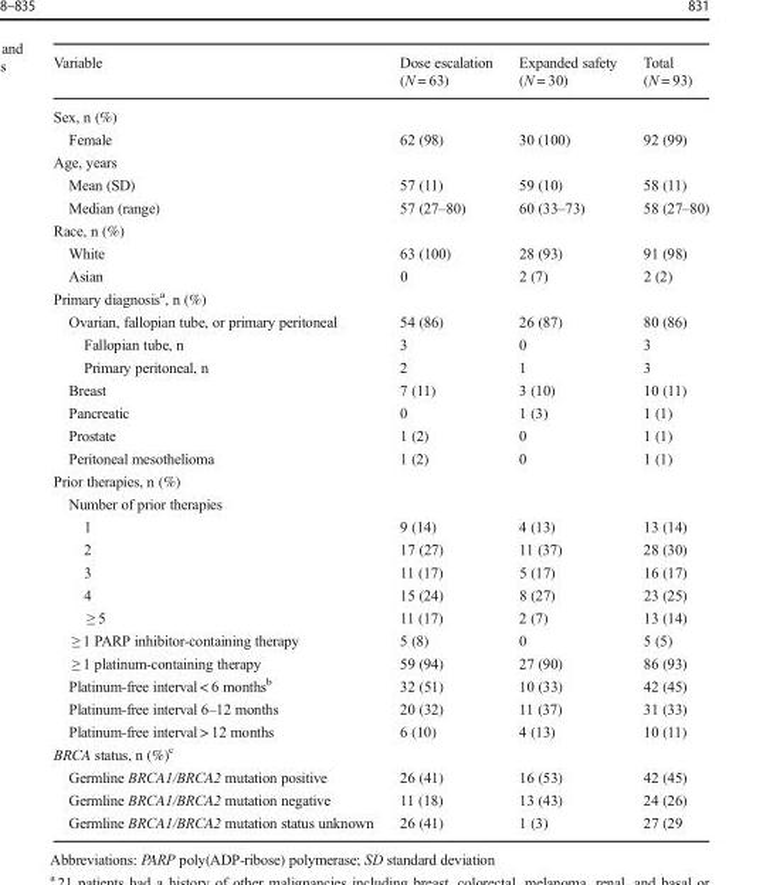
<table><thead><tr><td>Variable</td><td>Dose escalation (N = 63)</td><td>Expanded safety (N = 30)</td><td>Total (N = 93)</td></tr></thead><tbody><tr><td colspan="4">Sex, n (%)</td></tr><tr><td>Female</td><td>62 (98)</td><td>30 (100)</td><td>92 (99)</td></tr><tr><td colspan="4">Age, years</td></tr><tr><td>Mean (SD)</td><td>57 (11)</td><td>59 (10)</td><td>58 (11)</td></tr><tr><td>Median (range)</td><td>57 (27–80)</td><td>60 (33–73)</td><td>58 (27–80)</td></tr><tr><td colspan="4">Race, n (%)</td></tr><tr><td>White</td><td>63 (100)</td><td>28 (93)</td><td>91 (98)</td></tr><tr><td>Asian</td><td>0</td><td>2 (7)</td><td>2 (2)</td></tr><tr><td colspan="4">Primary diagnosis<sup>a</sup>, n (%)</td></tr><tr><td>Ovarian, fallopian tube, or primary peritoneal</td><td>54 (86)</td><td>26 (87)</td><td>80 (86)</td></tr><tr><td>Fallopian tube, n</td><td>3</td><td>0</td><td>3</td></tr><tr><td>Primary peritoneal, n</td><td>2</td><td>1</td><td>3</td></tr><tr><td>Breast</td><td>7 (11)</td><td>3 (10)</td><td>10 (11)</td></tr><tr><td>Pancreatic</td><td>0</td><td>1 (3)</td><td>1 (1)</td></tr><tr><td>Prostate</td><td>1 (2)</td><td>0</td><td>1 (1)</td></tr><tr><td>Peritoneal mesothelioma</td><td>1 (2)</td><td>0</td><td>1 (1)</td></tr><tr><td colspan="4">Prior therapies, n (%)</td></tr><tr><td colspan="4">Number of prior therapies</td></tr><tr><td>1</td><td>9 (14)</td><td>4 (13)</td><td>13 (14)</td></tr><tr><td>2</td><td>17 (27)</td><td>11 (37)</td><td>28 (30)</td></tr><tr><td>3</td><td>11 (17)</td><td>5 (17)</td><td>16 (17)</td></tr><tr><td>4</td><td>15 (24)</td><td>8 (27)</td><td>23 (25)</td></tr><tr><td>≥ 5</td><td>11 (17)</td><td>2 (7)</td><td>13 (14)</td></tr><tr><td>≥ 1 PARP inhibitor-containing therapy</td><td>5 (8)</td><td>0</td><td>5 (5)</td></tr><tr><td>≥ 1 platinum-containing therapy</td><td>59 (94)</td><td>27 (90)</td><td>86 (93)</td></tr><tr><td>Platinum-free interval &lt; 6 months<sup>b</sup></td><td>32 (51)</td><td>10 (33)</td><td>42 (45)</td></tr><tr><td>Platinum-free interval 6–12 months</td><td>20 (32)</td><td>11 (37)</td><td>31 (33)</td></tr><tr><td>Platinum-free interval &gt; 12 months</td><td>6 (10)</td><td>4 (13)</td><td>10 (11)</td></tr><tr><td colspan="4">BRCA status, n (%)<sup>c</sup></td></tr><tr><td>Germline BRCA1/BRCA2 mutation positive</td><td>26 (41)</td><td>16 (53)</td><td>42 (45)</td></tr><tr><td>Germline BRCA1/BRCA2 mutation negative</td><td>11 (18)</td><td>13 (43)</td><td>24 (26)</td></tr><tr><td>Germline BRCA1/BRCA2 mutation status unknown</td><td>26 (41)</td><td>1 (3)</td><td>27 (29</td></tr></tbody></table>